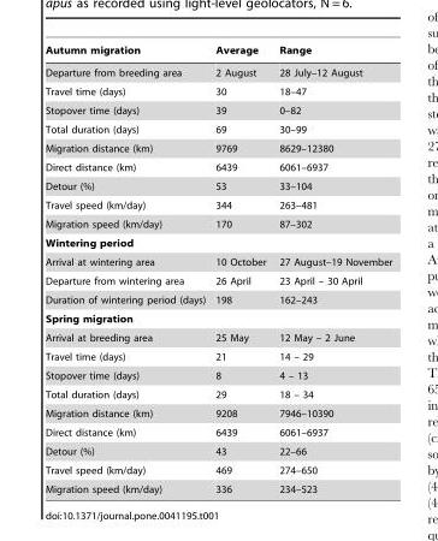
<table><thead><tr><td>Autumn migration</td><td>Average</td><td>Range</td></tr></thead><tbody><tr><td>Departure from breeding area</td><td>2 August</td><td>28 July–12 August</td></tr><tr><td>Travel time (days)</td><td>30</td><td>18–47</td></tr><tr><td>Stopover time (days)</td><td>39</td><td>0–82</td></tr><tr><td>Total duration (days)</td><td>69</td><td>30–99</td></tr><tr><td>Migration distance (km)</td><td>9769</td><td>8629–12380</td></tr><tr><td>Direct distance (km)</td><td>6439</td><td>6061–6937</td></tr><tr><td>Detour (%)</td><td>53</td><td>33–104</td></tr><tr><td>Travel speed (km/day)</td><td>344</td><td>263–481</td></tr><tr><td>Migration speed (km/day)</td><td>170</td><td>87–302</td></tr><tr><td colspan="3">Wintering period</td></tr><tr><td>Arrival at wintering area</td><td>10 October</td><td>27 August–19 November</td></tr><tr><td>Departure from wintering area</td><td>26 April</td><td>23 April – 30 April</td></tr><tr><td>Duration of wintering period (days)</td><td>198</td><td>162–243</td></tr><tr><td colspan="3">Spring migration</td></tr><tr><td>Arrival at breeding area</td><td>25 May</td><td>12 May – 2 June</td></tr><tr><td>Travel time (days)</td><td>21</td><td>14 – 29</td></tr><tr><td>Stopover time (days)</td><td>8</td><td>4 – 13</td></tr><tr><td>Total duration (days)</td><td>29</td><td>18 – 34</td></tr><tr><td>Migration distance (km)</td><td>9208</td><td>7946–10390</td></tr><tr><td>Direct distance (km)</td><td>6439</td><td>6061–6937</td></tr><tr><td>Detour (%)</td><td>43</td><td>22–66</td></tr><tr><td>Travel speed (km/day)</td><td>469</td><td>274–650</td></tr><tr><td>Migration speed (km/day)</td><td>336</td><td>234–523</td></tr></tbody></table>